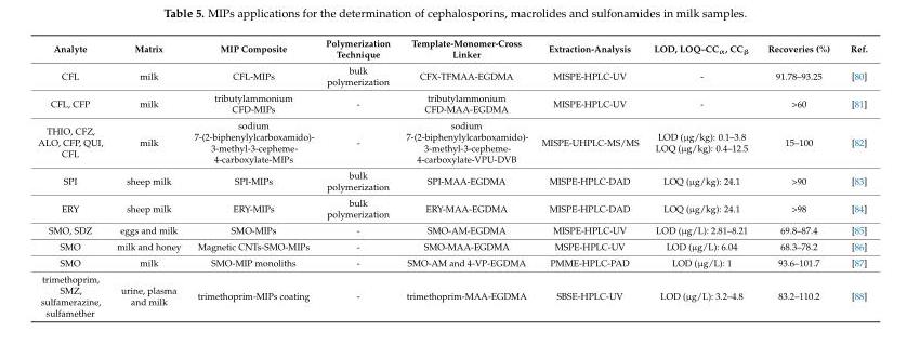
<table><thead><tr><td>Analyte</td><td>Matrix</td><td>MIP Composite</td><td>Polymerization Technique</td><td>Template-Monomer-Cross Linker</td><td>Extraction-Analysis</td><td>LOD, LOQ–CC<sub>α</sub>, CC<sub>β</sub></td><td>Recoveries (%)</td><td>Ref.</td></tr></thead><tbody><tr><td>CFL</td><td>milk</td><td>CFL-MIPs</td><td>bulk polymerization</td><td>CFX-TFMAA-EGDMA</td><td>MISPE-HPLC-UV</td><td>-</td><td>91.78–93.25</td><td>[80]</td></tr><tr><td>CFL, CFP</td><td>milk</td><td>tributylammonium CFD-MIPs</td><td>-</td><td>tributylammonium CFD-MAA-EGDMA</td><td>MISPE-HPLC-UV</td><td>-</td><td>&gt;60</td><td>[81]</td></tr><tr><td>THIO, CFZ, ALO, CFP, QUI, CFL</td><td>milk</td><td>sodium 7-(2-biphenylylcarboxamido)- 3-methyl-3-cepheme- 4-carboxylate-MIPs</td><td>-</td><td>sodium 7-(2-biphenylylcarboxamido)- 3-methyl-3-cepheme- 4-carboxylate-VPU-DVB</td><td>MISPE-UHPLC-MS/MS</td><td>LOD (µg/kg): 0.1–3.8 LOQ (µg/kg): 0.4–12.5</td><td>15–100</td><td>[82]</td></tr><tr><td>SPI</td><td>sheep milk</td><td>SPI-MIPs</td><td>bulk polymerization</td><td>SPI-MAA-EGDMA</td><td>MISPE-HPLC-DAD</td><td>LOQ (µg/kg): 24.1</td><td>&gt;90</td><td>[83]</td></tr><tr><td>ERY</td><td>sheep milk</td><td>ERY-MIPs</td><td>bulk polymerization</td><td>ERY-MAA-EGDMA</td><td>MISPE-HPLC-DAD</td><td>LOQ (µg/kg): 24.1</td><td>&gt;98</td><td>[84]</td></tr><tr><td>SMO, SDZ</td><td>eggs and milk</td><td>SMO-MIPs</td><td>-</td><td>SMO-AM-EGDMA</td><td>MISPE-HPLC-UV</td><td>LOD (µg/L): 2.81–8.21</td><td>69.8–87.4</td><td>[85]</td></tr><tr><td>SMO</td><td>milk and honey</td><td>Magnetic CNTs-SMO-MIPs</td><td>-</td><td>SMO-MAA-EGDMA</td><td>MSPE-HPLC-UV</td><td>LOD (µg/L): 6.04</td><td>68.3–78.2</td><td>[86]</td></tr><tr><td>SMO</td><td>milk</td><td>SMO-MIP monoliths</td><td>-</td><td>SMO-AM and 4-VP-EGDMA</td><td>PMME-HPLC-PAD</td><td>LOD (µg/L): 1</td><td>93.6–101.7</td><td>[87]</td></tr><tr><td>trimethoprim, SMZ, sulfamerazine, sulfamether</td><td>urine, plasma and milk</td><td>trimethoprim-MIPs coating</td><td>-</td><td>trimethoprim-MAA-EGDMA</td><td>SBSE-HPLC-UV</td><td>LOD (µg/L): 3.2–4.8</td><td>83.2–110.2</td><td>[88]</td></tr></tbody></table>